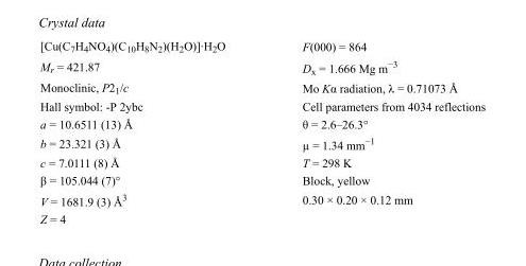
<table><tbody><tr><td>[Cu(C<sub>7</sub>H<sub>4</sub>NO<sub>4</sub>)(C<sub>10</sub>H<sub>8</sub>N<sub>2</sub>)(H<sub>2</sub>O)]·H<sub>2</sub>O</td><td>F(000) = 864</td></tr><tr><td>M<sub>r</sub> = 421.87</td><td>D<sub>x</sub> = 1.666 Mg m<sup>−3</sup></td></tr><tr><td>Monoclinic, P2<sub>1</sub>/c</td><td>Mo Kα radiation, λ = 0.71073 Å</td></tr><tr><td>Hall symbol: -P 2ybc</td><td>Cell parameters from 4034 reflections</td></tr><tr><td>a = 10.6511 (13) Å</td><td>θ = 2.6–26.3°</td></tr><tr><td>b = 23.321 (3) Å</td><td>µ = 1.34 mm<sup>−1</sup></td></tr><tr><td>c = 7.0111 (8) Å</td><td>T = 298 K</td></tr><tr><td>β = 105.044 (7)°</td><td>Block, yellow</td></tr><tr><td>V = 1681.9 (3) Å<sup>3</sup></td><td>0.30 × 0.20 × 0.12 mm</td></tr><tr><td>Z = 4</td><td></td></tr></tbody></table>